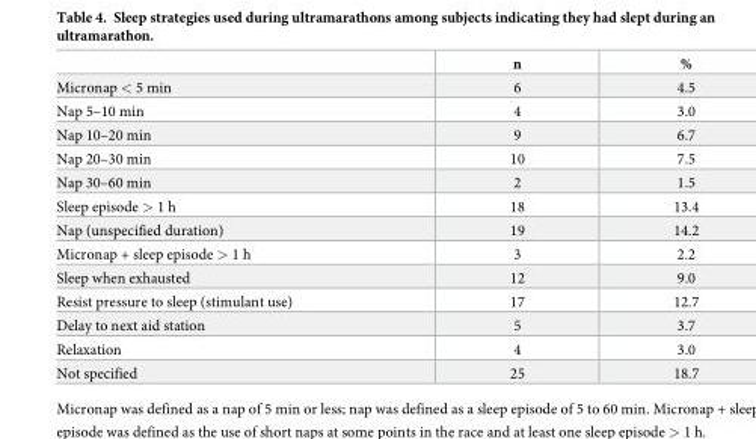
<table><thead><tr><td></td><td>n</td><td>%</td></tr></thead><tbody><tr><td>Micronap &lt; 5 min</td><td>6</td><td>4.5</td></tr><tr><td>Nap 5–10 min</td><td>4</td><td>3.0</td></tr><tr><td>Nap 10–20 min</td><td>9</td><td>6.7</td></tr><tr><td>Nap 20–30 min</td><td>10</td><td>7.5</td></tr><tr><td>Nap 30–60 min</td><td>2</td><td>1.5</td></tr><tr><td>Sleep episode &gt; 1 h</td><td>18</td><td>13.4</td></tr><tr><td>Nap (unspecified duration)</td><td>19</td><td>14.2</td></tr><tr><td>Micronap + sleep episode &gt; 1 h</td><td>3</td><td>2.2</td></tr><tr><td>Sleep when exhausted</td><td>12</td><td>9.0</td></tr><tr><td>Resist pressure to sleep (stimulant use)</td><td>17</td><td>12.7</td></tr><tr><td>Delay to next aid station</td><td>5</td><td>3.7</td></tr><tr><td>Relaxation</td><td>4</td><td>3.0</td></tr><tr><td>Not specified</td><td>25</td><td>18.7</td></tr></tbody></table>